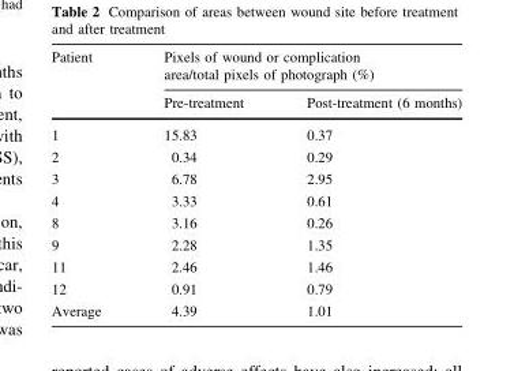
<table><thead><tr><td rowspan="2">Patient</td><td colspan="2">Pixels of wound or complication area/total pixels of photograph (%)</td></tr><tr><td>Pre-treatment</td><td>Post-treatment (6 months)</td></tr></thead><tbody><tr><td>1</td><td>15.83</td><td>0.37</td></tr><tr><td>2</td><td>0.34</td><td>0.29</td></tr><tr><td>3</td><td>6.78</td><td>2.95</td></tr><tr><td>4</td><td>3.33</td><td>0.61</td></tr><tr><td>8</td><td>3.16</td><td>0.26</td></tr><tr><td>9</td><td>2.28</td><td>1.35</td></tr><tr><td>11</td><td>2.46</td><td>1.46</td></tr><tr><td>12</td><td>0.91</td><td>0.79</td></tr><tr><td>Average</td><td>4.39</td><td>1.01</td></tr></tbody></table>